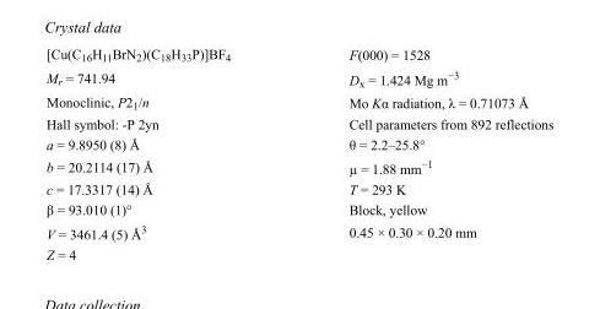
<table><tbody><tr><td>[Cu(C<sub>16</sub>H<sub>11</sub>BrN<sub>2</sub>)(C<sub>18</sub>H<sub>33</sub>P)]BF<sub>4</sub></td><td>F(000) = 1528</td></tr><tr><td>M<sub>r</sub> = 741.94</td><td>D<sub>x</sub> = 1.424 Mg m<sup>−3</sup></td></tr><tr><td>Monoclinic, P2<sub>1</sub>/n</td><td>Mo Kα radiation, λ = 0.71073 Å</td></tr><tr><td>Hall symbol: -P 2yn</td><td>Cell parameters from 892 reflections</td></tr><tr><td>a = 9.8950 (8) Å</td><td>θ = 2.2–25.8°</td></tr><tr><td>b = 20.2114 (17) Å</td><td>µ = 1.88 mm<sup>−1</sup></td></tr><tr><td>c = 17.3317 (14) Å</td><td>T = 293 K</td></tr><tr><td>β = 93.010 (1)°</td><td>Block, yellow</td></tr><tr><td>V = 3461.4 (5) Å<sup>3</sup></td><td>0.45 × 0.30 × 0.20 mm</td></tr><tr><td>Z = 4</td><td></td></tr></tbody></table>